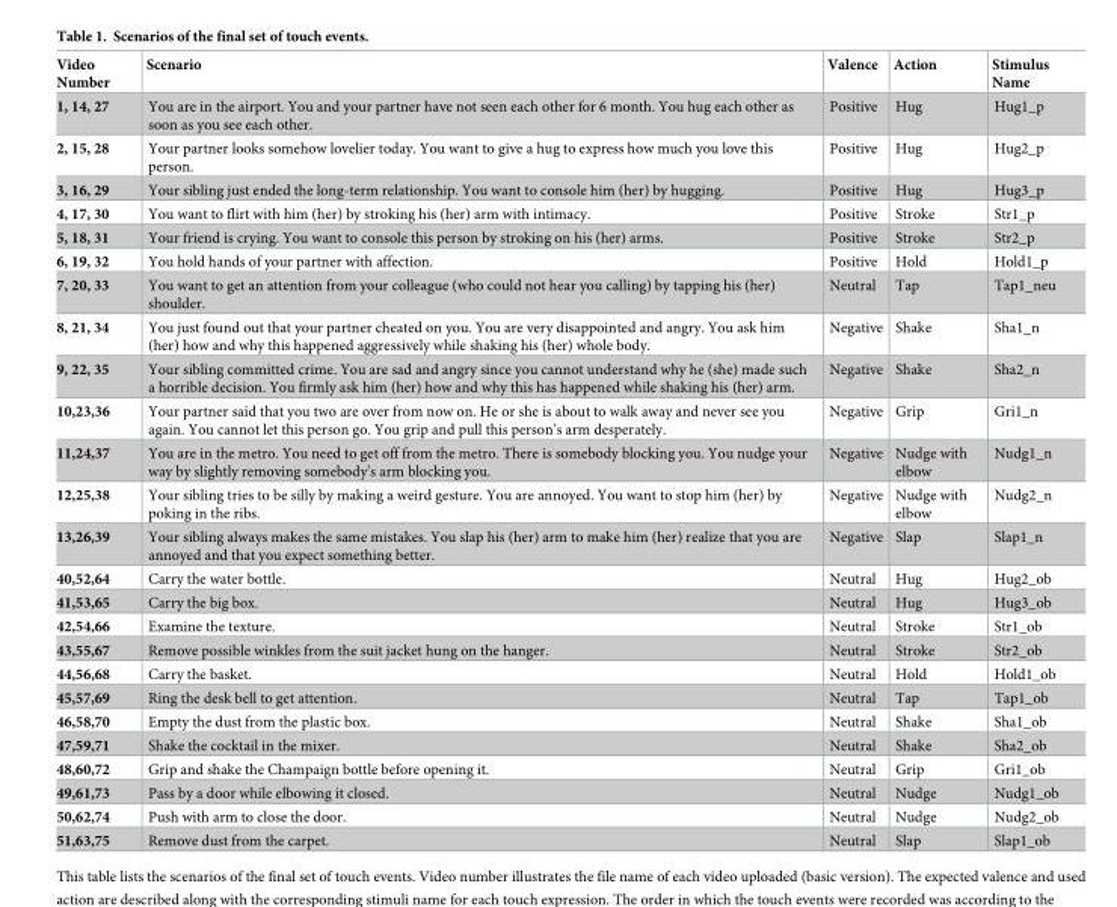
<table><thead><tr><td>Video Number</td><td>Scenario</td><td>Valence</td><td>Action</td><td>Stimulus Name</td></tr></thead><tbody><tr><td>1, 14, 27</td><td>You are in the airport. You and your partner have not seen each other for 6 month. You hug each other as soon as you see each other.</td><td>Positive</td><td>Hug</td><td>Hug1_p</td></tr><tr><td>2, 15, 28</td><td>Your partner looks somehow lovelier today. You want to give a hug to express how much you love this person.</td><td>Positive</td><td>Hug</td><td>Hug2_p</td></tr><tr><td>3, 16, 29</td><td>Your sibling just ended the long-term relationship. You want to console him (her) by hugging.</td><td>Positive</td><td>Hug</td><td>Hug3_p</td></tr><tr><td>4, 17, 30</td><td>You want to flirt with him (her) by stroking his (her) arm with intimacy.</td><td>Positive</td><td>Stroke</td><td>Str1_p</td></tr><tr><td>5, 18, 31</td><td>Your friend is crying. You want to console this person by stroking on his (her) arms.</td><td>Positive</td><td>Stroke</td><td>Str2_p</td></tr><tr><td>6, 19, 32</td><td>You hold hands of your partner with affection.</td><td>Positive</td><td>Hold</td><td>Hold1_p</td></tr><tr><td>7, 20, 33</td><td>You want to get an attention from your colleague (who could not hear you calling) by tapping his (her) shoulder.</td><td>Neutral</td><td>Tap</td><td>Tap1_neu</td></tr><tr><td>8, 21, 34</td><td>You just found out that your partner cheated on you. You are very disappointed and angry. You ask him (her) how and why this happened aggressively while shaking his (her) whole body.</td><td>Negative</td><td>Shake</td><td>Sha1_n</td></tr><tr><td>9, 22, 35</td><td>Your sibling committed crime. You are sad and angry since you cannot understand why he (she) made such a horrible decision. You firmly ask him (her) how and why this has happened while shaking his (her) arm.</td><td>Negative</td><td>Shake</td><td>Sha2_n</td></tr><tr><td>10,23,36</td><td>Your partner said that you two are over from now on. He or she is about to walk away and never see you again. You cannot let this person go. You grip and pull this person’s arm desperately.</td><td>Negative</td><td>Grip</td><td>Gri1_n</td></tr><tr><td>11,24,37</td><td>You are in the metro. You need to get off from the metro. There is somebody blocking you. You nudge your way by slightly removing somebody’s arm blocking you.</td><td>Negative</td><td>Nudge with elbow</td><td>Nudg1_n</td></tr><tr><td>12,25,38</td><td>Your sibling tries to be silly by making a weird gesture. You are annoyed. You want to stop him (her) by poking in the ribs.</td><td>Negative</td><td>Nudge with elbow</td><td>Nudg2_n</td></tr><tr><td>13,26,39</td><td>Your sibling always makes the same mistakes. You slap his (her) arm to make him (her) realize that you are annoyed and that you expect something better.</td><td>Negative</td><td>Slap</td><td>Slap1_n</td></tr><tr><td>40,52,64</td><td>Carry the water bottle.</td><td>Neutral</td><td>Hug</td><td>Hug2_ob</td></tr><tr><td>41,53,65</td><td>Carry the big box.</td><td>Neutral</td><td>Hug</td><td>Hug3_ob</td></tr><tr><td>42,54,66</td><td>Examine the texture.</td><td>Neutral</td><td>Stroke</td><td>Str1_ob</td></tr><tr><td>43,55,67</td><td>Remove possible winkles from the suit jacket hung on the hanger.</td><td>Neutral</td><td>Stroke</td><td>Str2_ob</td></tr><tr><td>44,56,68</td><td>Carry the basket.</td><td>Neutral</td><td>Hold</td><td>Hold1_ob</td></tr><tr><td>45,57,69</td><td>Ring the desk bell to get attention.</td><td>Neutral</td><td>Tap</td><td>Tap1_ob</td></tr><tr><td>46,58,70</td><td>Empty the dust from the plastic box.</td><td>Neutral</td><td>Shake</td><td>Sha1_ob</td></tr><tr><td>47,59,71</td><td>Shake the cocktail in the mixer.</td><td>Neutral</td><td>Shake</td><td>Sha2_ob</td></tr><tr><td>48,60,72</td><td>Grip and shake the Champaign bottle before opening it.</td><td>Neutral</td><td>Grip</td><td>Gri1_ob</td></tr><tr><td>49,61,73</td><td>Pass by a door while elbowing it closed.</td><td>Neutral</td><td>Nudge</td><td>Nudg1_ob</td></tr><tr><td>50,62,74</td><td>Push with arm to close the door.</td><td>Neutral</td><td>Nudge</td><td>Nudg2_ob</td></tr><tr><td>51,63,75</td><td>Remove dust from the carpet.</td><td>Neutral</td><td>Slap</td><td>Slap1_ob</td></tr></tbody></table>